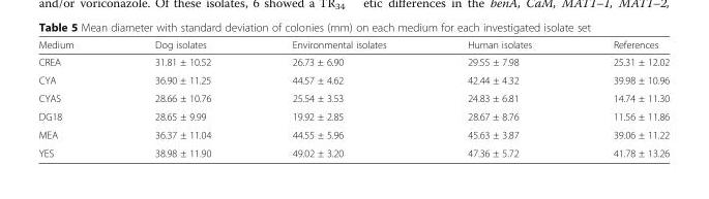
<table><thead><tr><td>Medium</td><td>Dog isolates</td><td>Environmental isolates</td><td>Human isolates</td><td>References</td></tr></thead><tbody><tr><td>CREA</td><td>31.81 ± 10.52</td><td>26.73 ± 6.90</td><td>29.55 ± 7.98</td><td>25.31 ± 12.02</td></tr><tr><td>CYA</td><td>36.90 ± 11.25</td><td>44.57 ± 4.62</td><td>42.44 ± 4.32</td><td>39.98 ± 10.96</td></tr><tr><td>CYAS</td><td>28.66 ± 10.76</td><td>25.54 ± 3.53</td><td>24.83 ± 6.81</td><td>14.74 ± 11.30</td></tr><tr><td>DG18</td><td>28.65 ± 9.99</td><td>19.92 ± 2.85</td><td>28.67 ± 8.76</td><td>11.56 ± 11.86</td></tr><tr><td>MEA</td><td>36.37 ± 11.04</td><td>44.55 ± 5.96</td><td>45.63 ± 3.87</td><td>39.06 ± 11.22</td></tr><tr><td>YES</td><td>38.98 ± 11.90</td><td>49.02 ± 3.20</td><td>47.36 ± 5.72</td><td>41.78 ± 13.26</td></tr></tbody></table>